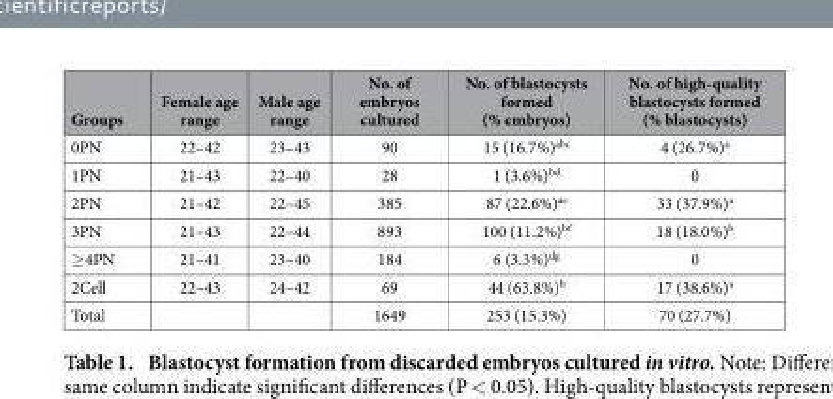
<table><thead><tr><td>Groups</td><td>Female age range</td><td>Male age range</td><td>No. of embryos cultured</td><td>No. of blastocysts formed (% embryos)</td><td>No. of high-quality blastocysts formed (% blastocysts)</td></tr></thead><tbody><tr><td>0PN</td><td>22–42</td><td>23–43</td><td>90</td><td>15 (16.7%)<sup>abc</sup></td><td>4 (26.7%)<sup>a</sup></td></tr><tr><td>1PN</td><td>21–43</td><td>22–40</td><td>28</td><td>1 (3.6%)<sup>bd</sup></td><td>0</td></tr><tr><td>2PN</td><td>21–42</td><td>22–45</td><td>385</td><td>87 (22.6%)<sup>ae</sup></td><td>33 (37.9%)<sup>a</sup></td></tr><tr><td>3PN</td><td>21–43</td><td>22–44</td><td>893</td><td>100 (11.2%)<sup>bf</sup></td><td>18 (18.0%)<sup>b</sup></td></tr><tr><td>≥ 4PN</td><td>21–41</td><td>23–40</td><td>184</td><td>6 (3.3%)<sup>dg</sup></td><td>0</td></tr><tr><td>2Cell</td><td>22–43</td><td>24–42</td><td>69</td><td>44 (63.8%)<sup>h</sup></td><td>17 (38.6%)<sup>a</sup></td></tr><tr><td>Total</td><td></td><td></td><td>1649</td><td>253 (15.3%)</td><td>70 (27.7%)</td></tr></tbody></table>